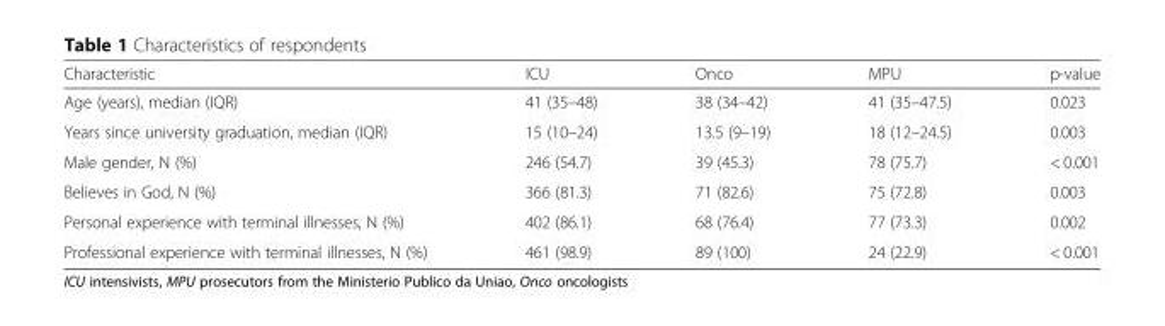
<table><thead><tr><td>Characteristic</td><td>ICU</td><td>Onco</td><td>MPU</td><td>p-value</td></tr></thead><tbody><tr><td>Age (years), median (IQR)</td><td>41 (35–48)</td><td>38 (34–42)</td><td>41 (35–47.5)</td><td>0.023</td></tr><tr><td>Years since university graduation, median (IQR)</td><td>15 (10–24)</td><td>13.5 (9–19)</td><td>18 (12–24.5)</td><td>0.003</td></tr><tr><td>Male gender, N (%)</td><td>246 (54.7)</td><td>39 (45.3)</td><td>78 (75.7)</td><td>&lt; 0.001</td></tr><tr><td>Believes in God, N (%)</td><td>366 (81.3)</td><td>71 (82.6)</td><td>75 (72.8)</td><td>0.003</td></tr><tr><td>Personal experience with terminal illnesses, N (%)</td><td>402 (86.1)</td><td>68 (76.4)</td><td>77 (73.3)</td><td>0.002</td></tr><tr><td>Professional experience with terminal illnesses, N (%)</td><td>461 (98.9)</td><td>89 (100)</td><td>24 (22.9)</td><td>&lt; 0.001</td></tr></tbody></table>